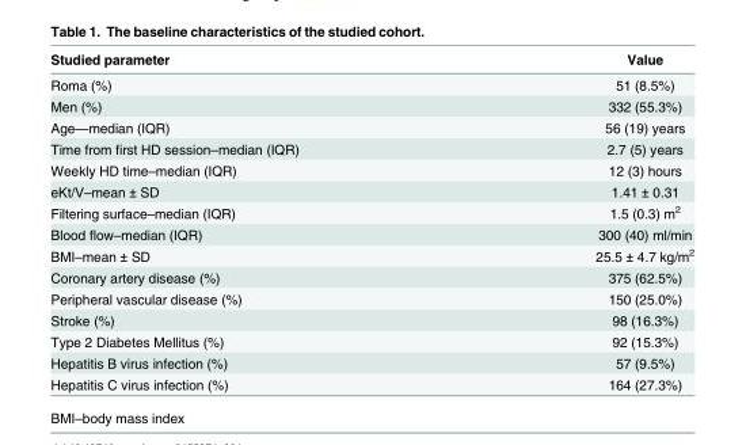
<table><thead><tr><td>Studied parameter</td><td>Value</td></tr></thead><tbody><tr><td>Roma (%)</td><td>51 (8.5%)</td></tr><tr><td>Men (%)</td><td>332 (55.3%)</td></tr><tr><td>Age—median (IQR)</td><td>56 (19) years</td></tr><tr><td>Time from first HD session–median (IQR)</td><td>2.7 (5) years</td></tr><tr><td>Weekly HD time–median (IQR)</td><td>12 (3) hours</td></tr><tr><td>eKt/V–mean ± SD</td><td>1.41 ± 0.31</td></tr><tr><td>Filtering surface–median (IQR)</td><td>1.5 (0.3) m<sup>2</sup></td></tr><tr><td>Blood flow–median (IQR)</td><td>300 (40) ml/min</td></tr><tr><td>BMI–mean ± SD</td><td>25.5 ± 4.7 kg/m<sup>2</sup></td></tr><tr><td>Coronary artery disease (%)</td><td>375 (62.5%)</td></tr><tr><td>Peripheral vascular disease (%)</td><td>150 (25.0%)</td></tr><tr><td>Stroke (%)</td><td>98 (16.3%)</td></tr><tr><td>Type 2 Diabetes Mellitus (%)</td><td>92 (15.3%)</td></tr><tr><td>Hepatitis B virus infection (%)</td><td>57 (9.5%)</td></tr><tr><td>Hepatitis C virus infection (%)</td><td>164 (27.3%)</td></tr></tbody></table>